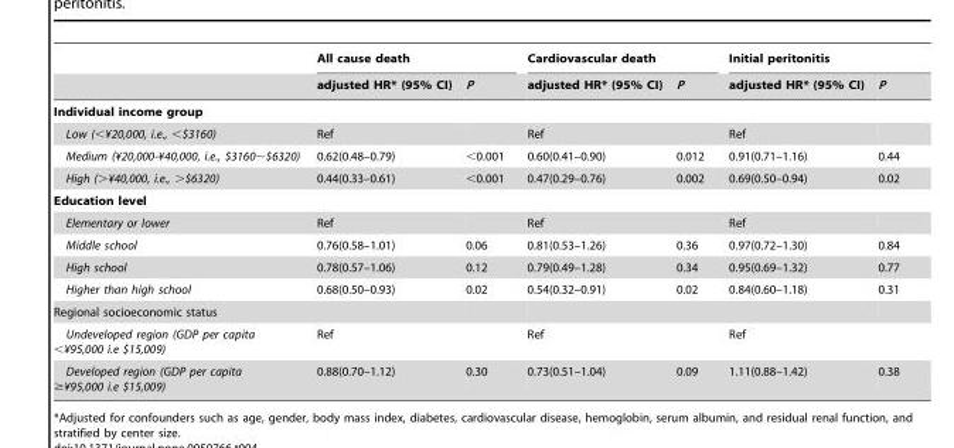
<table><thead><tr><td rowspan="2"></td><td colspan="2">All cause death</td><td colspan="2">Cardiovascular death</td><td colspan="2">Initial peritonitis</td></tr><tr><td>adjusted HR* (95% CI)</td><td>P</td><td>adjusted HR* (95% CI)</td><td>P</td><td>adjusted HR* (95% CI)</td><td>P</td></tr></thead><tbody><tr><td colspan="7">Individual income group</td></tr><tr><td>Low (&lt;¥20,000, i.e., &lt;$3160)</td><td>Ref</td><td></td><td>Ref</td><td></td><td>Ref</td><td></td></tr><tr><td>Medium (¥20,000-¥40,000, i.e., $3160∼$6320)</td><td>0.62(0.48–0.79)</td><td>&lt;0.001</td><td>0.60(0.41–0.90)</td><td>0.012</td><td>0.91(0.71–1.16)</td><td>0.44</td></tr><tr><td>High (&gt;¥40,000, i.e., &gt;$6320)</td><td>0.44(0.33–0.61)</td><td>&lt;0.001</td><td>0.47(0.29–0.76)</td><td>0.002</td><td>0.69(0.50–0.94)</td><td>0.02</td></tr><tr><td colspan="7">Education level</td></tr><tr><td>Elementary or lower</td><td>Ref</td><td></td><td>Ref</td><td></td><td>Ref</td><td></td></tr><tr><td>Middle school</td><td>0.76(0.58–1.01)</td><td>0.06</td><td>0.81(0.53–1.26)</td><td>0.36</td><td>0.97(0.72–1.30)</td><td>0.84</td></tr><tr><td>High school</td><td>0.78(0.57–1.06)</td><td>0.12</td><td>0.79(0.49–1.28)</td><td>0.34</td><td>0.95(0.69–1.32)</td><td>0.77</td></tr><tr><td>Higher than high school</td><td>0.68(0.50–0.93)</td><td>0.02</td><td>0.54(0.32–0.91)</td><td>0.02</td><td>0.84(0.60–1.18)</td><td>0.31</td></tr><tr><td colspan="7">Regional socioeconomic status</td></tr><tr><td>Undeveloped region (GDP per capita &lt;¥95,000 i.e $15,009)</td><td>Ref</td><td></td><td>Ref</td><td></td><td>Ref</td><td></td></tr><tr><td>Developed region (GDP per capita ≥¥95,000 i.e $15,009)</td><td>0.88(0.70–1.12)</td><td>0.30</td><td>0.73(0.51–1.04)</td><td>0.09</td><td>1.11(0.88–1.42)</td><td>0.38</td></tr></tbody></table>